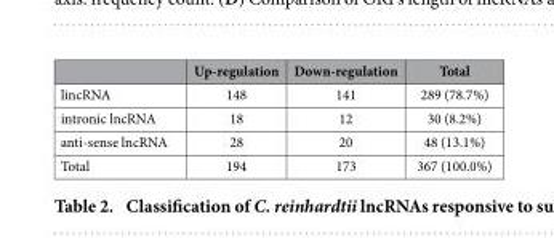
<table><thead><tr><td></td><td>Up-regulation</td><td>Down-regulation</td><td>Total</td></tr></thead><tbody><tr><td>lincRNA</td><td>148</td><td>141</td><td>289 (78.7%)</td></tr><tr><td>intronic lncRNA</td><td>18</td><td>12</td><td>30 (8.2%)</td></tr><tr><td>anti-sense lncRNA</td><td>28</td><td>20</td><td>48 (13.1%)</td></tr><tr><td>Total</td><td>194</td><td>173</td><td>367 (100.0%)</td></tr></tbody></table>